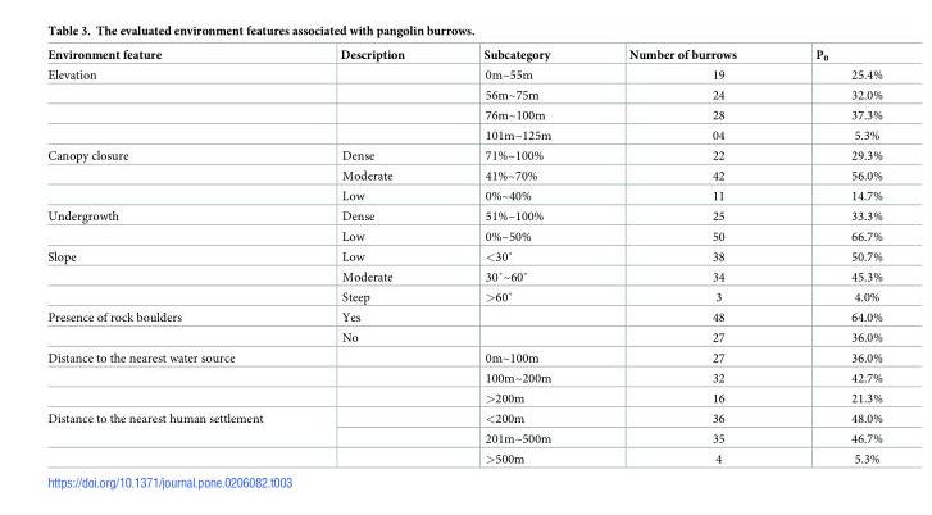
<table><thead><tr><td>Environment feature</td><td>Description</td><td>Subcategory</td><td>Number of burrows</td><td>P<sub>0</sub></td></tr></thead><tbody><tr><td rowspan="4">Elevation</td><td></td><td>0m~55m</td><td>19</td><td>25.4%</td></tr><tr><td></td><td>56m~75m</td><td>24</td><td>32.0%</td></tr><tr><td></td><td>76m~100m</td><td>28</td><td>37.3%</td></tr><tr><td></td><td>101m~125m</td><td>04</td><td>5.3%</td></tr><tr><td rowspan="3">Canopy closure</td><td>Dense</td><td>71%~100%</td><td>22</td><td>29.3%</td></tr><tr><td>Moderate</td><td>41%~70%</td><td>42</td><td>56.0%</td></tr><tr><td>Low</td><td>0%~40%</td><td>11</td><td>14.7%</td></tr><tr><td rowspan="2">Undergrowth</td><td>Dense</td><td>51%~100%</td><td>25</td><td>33.3%</td></tr><tr><td>Low</td><td>0%~50%</td><td>50</td><td>66.7%</td></tr><tr><td rowspan="3">Slope</td><td>Low</td><td>&lt;30˚</td><td>38</td><td>50.7%</td></tr><tr><td>Moderate</td><td>30˚~60˚</td><td>34</td><td>45.3%</td></tr><tr><td>Steep</td><td>&gt;60˚</td><td>3</td><td>4.0%</td></tr><tr><td rowspan="2">Presence of rock boulders</td><td>Yes</td><td></td><td>48</td><td>64.0%</td></tr><tr><td>No</td><td></td><td>27</td><td>36.0%</td></tr><tr><td rowspan="3">Distance to the nearest water source</td><td></td><td>0m~100m</td><td>27</td><td>36.0%</td></tr><tr><td></td><td>100m~200m</td><td>32</td><td>42.7%</td></tr><tr><td></td><td>&gt;200m</td><td>16</td><td>21.3%</td></tr><tr><td rowspan="3">Distance to the nearest human settlement</td><td></td><td>&lt;200m</td><td>36</td><td>48.0%</td></tr><tr><td></td><td>201m~500m</td><td>35</td><td>46.7%</td></tr><tr><td></td><td>&gt;500m</td><td>4</td><td>5.3%</td></tr></tbody></table>